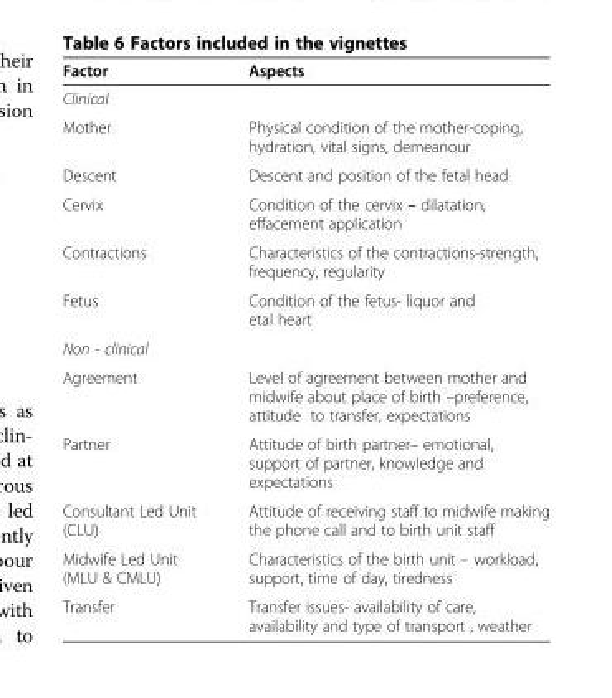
<table><thead><tr><td>Factor</td><td>Aspects</td></tr></thead><tbody><tr><td colspan="2">Clinical</td></tr><tr><td>Mother</td><td>Physical condition of the mother-coping, hydration, vital signs, demeanour</td></tr><tr><td>Descent</td><td>Descent and position of the fetal head</td></tr><tr><td>Cervix</td><td>Condition of the cervix – dilatation, effacement application</td></tr><tr><td>Contractions</td><td>Characteristics of the contractions-strength, frequency, regularity</td></tr><tr><td>Fetus</td><td>Condition of the fetus- liquor and etal heart</td></tr><tr><td colspan="2">Non - clinical</td></tr><tr><td>Agreement</td><td>Level of agreement between mother and midwife about place of birth –preference, attitude to transfer, expectations</td></tr><tr><td>Partner</td><td>Attitude of birth partner– emotional, support of partner, knowledge and expectations</td></tr><tr><td>Consultant Led Unit (CLU)</td><td>Attitude of receiving staff to midwife making the phone call and to birth unit staff</td></tr><tr><td>Midwife Led Unit (MLU &amp; CMLU)</td><td>Characteristics of the birth unit – workload, support, time of day, tiredness</td></tr><tr><td>Transfer</td><td>Transfer issues- availability of care, availability and type of transport , weather</td></tr></tbody></table>